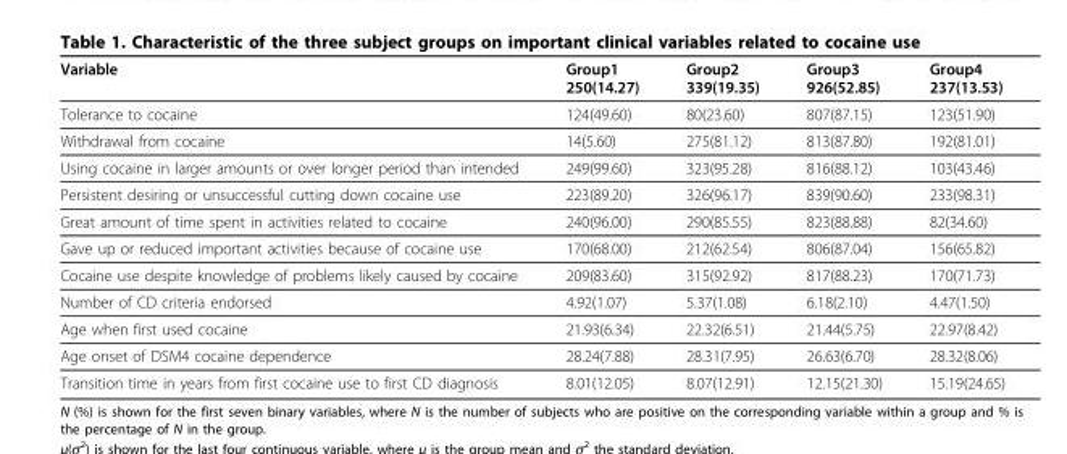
<table><thead><tr><td>Variable</td><td>Group1 250(14.27)</td><td>Group2 339(19.35)</td><td>Group3 926(52.85)</td><td>Group4 237(13.53)</td></tr></thead><tbody><tr><td>Tolerance to cocaine</td><td>124(49.60)</td><td>80(23.60)</td><td>807(87.15)</td><td>123(51.90)</td></tr><tr><td>Withdrawal from cocaine</td><td>14(5.60)</td><td>275(81.12)</td><td>813(87.80)</td><td>192(81.01)</td></tr><tr><td>Using cocaine in larger amounts or over longer period than intended</td><td>249(99.60)</td><td>323(95.28)</td><td>816(88.12)</td><td>103(43.46)</td></tr><tr><td>Persistent desiring or unsuccessful cutting down cocaine use</td><td>223(89.20)</td><td>326(96.17)</td><td>839(90.60)</td><td>233(98.31)</td></tr><tr><td>Great amount of time spent in activities related to cocaine</td><td>240(96.00)</td><td>290(85.55)</td><td>823(88.88)</td><td>82(34.60)</td></tr><tr><td>Gave up or reduced important activities because of cocaine use</td><td>170(68.00)</td><td>212(62.54)</td><td>806(87.04)</td><td>156(65.82)</td></tr><tr><td>Cocaine use despite knowledge of problems likely caused by cocaine</td><td>209(83.60)</td><td>315(92.92)</td><td>817(88.23)</td><td>170(71.73)</td></tr><tr><td>Number of CD criteria endorsed</td><td>4.92(1.07)</td><td>5.37(1.08)</td><td>6.18(2.10)</td><td>4.47(1.50)</td></tr><tr><td>Age when first used cocaine</td><td>21.93(6.34)</td><td>22.32(6.51)</td><td>21.44(5.75)</td><td>22.97(8.42)</td></tr><tr><td>Age onset of DSM4 cocaine dependence</td><td>28.24(7.88)</td><td>28.31(7.95)</td><td>26.63(6.70)</td><td>28.32(8.06)</td></tr><tr><td>Transition time in years from first cocaine use to first CD diagnosis</td><td>8.01(12.05)</td><td>8.07(12.91)</td><td>12.15(21.30)</td><td>15.19(24.65)</td></tr></tbody></table>